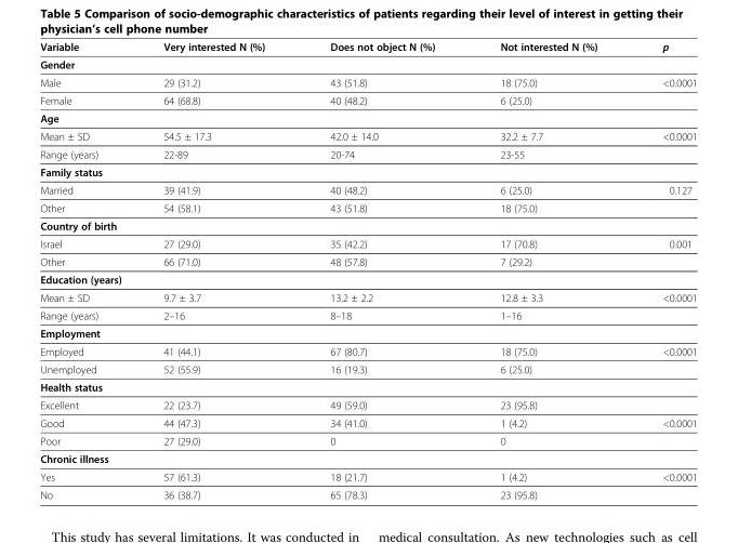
<table><thead><tr><td>Variable</td><td>Very interested N (%)</td><td>Does not object N (%)</td><td>Not interested N (%)</td><td>p</td></tr></thead><tbody><tr><td colspan="5">Gender</td></tr><tr><td>Male</td><td>29 (31.2)</td><td>43 (51.8)</td><td>18 (75.0)</td><td>&lt;0.0001</td></tr><tr><td>Female</td><td>64 (68.8)</td><td>40 (48.2)</td><td>6 (25.0)</td><td></td></tr><tr><td colspan="5">Age</td></tr><tr><td>Mean ± SD</td><td>54.5 ± 17.3</td><td>42.0 ± 14.0</td><td>32.2 ± 7.7</td><td>&lt;0.0001</td></tr><tr><td>Range (years)</td><td>22-89</td><td>20-74</td><td>23-55</td><td></td></tr><tr><td colspan="5">Family status</td></tr><tr><td>Married</td><td>39 (41.9)</td><td>40 (48.2)</td><td>6 (25.0)</td><td>0.127</td></tr><tr><td>Other</td><td>54 (58.1)</td><td>43 (51.8)</td><td>18 (75.0)</td><td></td></tr><tr><td colspan="5">Country of birth</td></tr><tr><td>Israel</td><td>27 (29.0)</td><td>35 (42.2)</td><td>17 (70.8)</td><td>0.001</td></tr><tr><td>Other</td><td>66 (71.0)</td><td>48 (57.8)</td><td>7 (29.2)</td><td></td></tr><tr><td colspan="5">Education (years)</td></tr><tr><td>Mean ± SD</td><td>9.7 ± 3.7</td><td>13.2 ± 2.2</td><td>12.8 ± 3.3</td><td>&lt;0.0001</td></tr><tr><td>Range (years)</td><td>2–16</td><td>8–18</td><td>1–16</td><td></td></tr><tr><td colspan="5">Employment</td></tr><tr><td>Employed</td><td>41 (44.1)</td><td>67 (80.7)</td><td>18 (75.0)</td><td>&lt;0.0001</td></tr><tr><td>Unemployed</td><td>52 (55.9)</td><td>16 (19.3)</td><td>6 (25.0)</td><td></td></tr><tr><td colspan="5">Health status</td></tr><tr><td>Excellent</td><td>22 (23.7)</td><td>49 (59.0)</td><td>23 (95.8)</td><td></td></tr><tr><td>Good</td><td>44 (47.3)</td><td>34 (41.0)</td><td>1 (4.2)</td><td>&lt;0.0001</td></tr><tr><td>Poor</td><td>27 (29.0)</td><td>0</td><td>0</td><td></td></tr><tr><td colspan="5">Chronic illness</td></tr><tr><td>Yes</td><td>57 (61.3)</td><td>18 (21.7)</td><td>1 (4.2)</td><td>&lt;0.0001</td></tr><tr><td>No</td><td>36 (38.7)</td><td>65 (78.3)</td><td>23 (95.8)</td><td></td></tr></tbody></table>